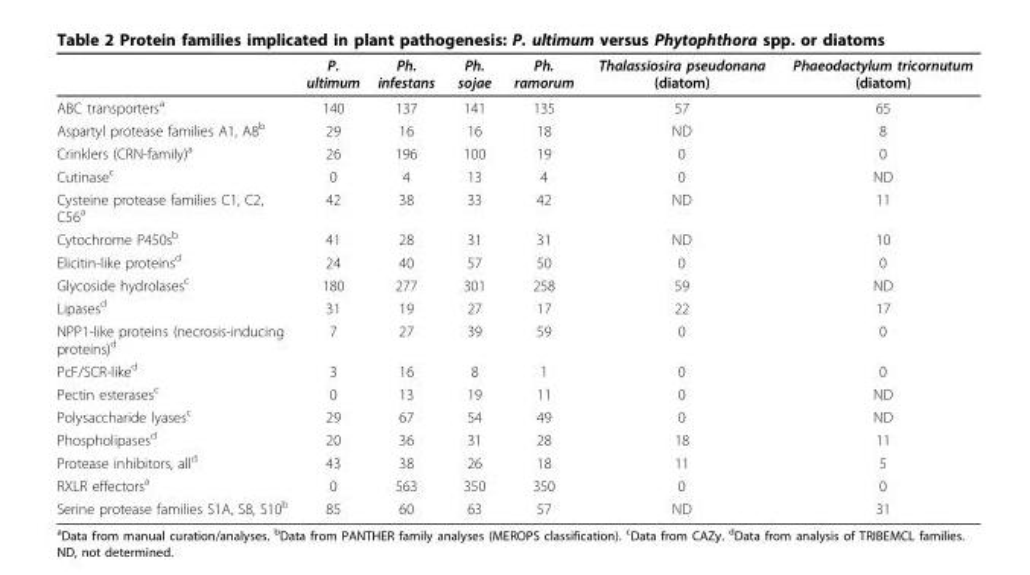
<table><thead><tr><td></td><td>P. ultimum</td><td>Ph. infestans</td><td>Ph. sojae</td><td>Ph. ramorum</td><td>Thalassiosira pseudonana (diatom)</td><td>Phaeodactylum tricornutum (diatom)</td></tr></thead><tbody><tr><td>ABC transporters<sup>a</sup></td><td>140</td><td>137</td><td>141</td><td>135</td><td>57</td><td>65</td></tr><tr><td>Aspartyl protease families A1, A8<sup>b</sup></td><td>29</td><td>16</td><td>16</td><td>18</td><td>ND</td><td>8</td></tr><tr><td>Crinklers (CRN-family)<sup>a</sup></td><td>26</td><td>196</td><td>100</td><td>19</td><td>0</td><td>0</td></tr><tr><td>Cutinase<sup>c</sup></td><td>0</td><td>4</td><td>13</td><td>4</td><td>0</td><td>ND</td></tr><tr><td>Cysteine protease families C1, C2, C56<sup>a</sup></td><td>42</td><td>38</td><td>33</td><td>42</td><td>ND</td><td>11</td></tr><tr><td>Cytochrome P450s<sup>b</sup></td><td>41</td><td>28</td><td>31</td><td>31</td><td>ND</td><td>10</td></tr><tr><td>Elicitin-like proteins<sup>d</sup></td><td>24</td><td>40</td><td>57</td><td>50</td><td>0</td><td>0</td></tr><tr><td>Glycoside hydrolases<sup>c</sup></td><td>180</td><td>277</td><td>301</td><td>258</td><td>59</td><td>ND</td></tr><tr><td>Lipases<sup>d</sup></td><td>31</td><td>19</td><td>27</td><td>17</td><td>22</td><td>17</td></tr><tr><td>NPP1-like proteins (necrosis-inducing proteins)<sup>d</sup></td><td>7</td><td>27</td><td>39</td><td>59</td><td>0</td><td>0</td></tr><tr><td>PcF/SCR-like<sup>d</sup></td><td>3</td><td>16</td><td>8</td><td>1</td><td>0</td><td>0</td></tr><tr><td>Pectin esterases<sup>c</sup></td><td>0</td><td>13</td><td>19</td><td>11</td><td>0</td><td>ND</td></tr><tr><td>Polysaccharide lyases<sup>c</sup></td><td>29</td><td>67</td><td>54</td><td>49</td><td>0</td><td>ND</td></tr><tr><td>Phospholipases<sup>d</sup></td><td>20</td><td>36</td><td>31</td><td>28</td><td>18</td><td>11</td></tr><tr><td>Protease inhibitors, all<sup>d</sup></td><td>43</td><td>38</td><td>26</td><td>18</td><td>11</td><td>5</td></tr><tr><td>RXLR effectors<sup>a</sup></td><td>0</td><td>563</td><td>350</td><td>350</td><td>0</td><td>0</td></tr><tr><td>Serine protease families S1A, S8, S10<sup>b</sup></td><td>85</td><td>60</td><td>63</td><td>57</td><td>ND</td><td>31</td></tr></tbody></table>